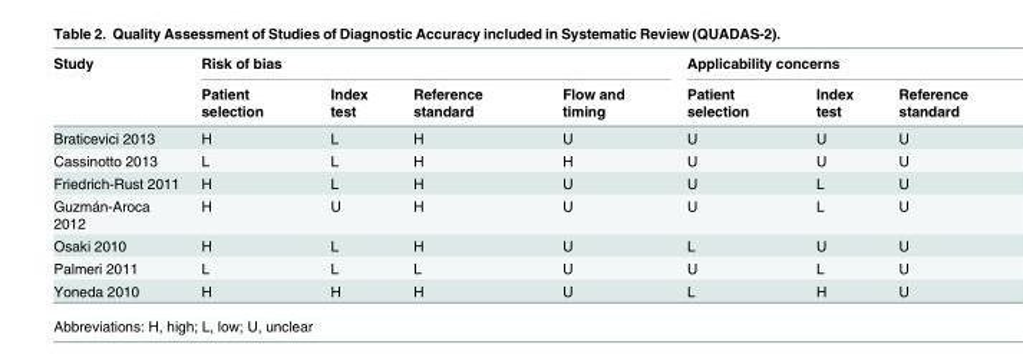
<table><thead><tr><td rowspan="2">Study</td><td colspan="4">Risk of bias</td><td colspan="3">Applicability concerns</td></tr><tr><td>Patient selection</td><td>Index test</td><td>Reference standard</td><td>Flow and timing</td><td>Patient selection</td><td>Index test</td><td>Reference standard</td></tr></thead><tbody><tr><td>Braticevici 2013</td><td>H</td><td>L</td><td>H</td><td>U</td><td>U</td><td>U</td><td>U</td></tr><tr><td>Cassinotto 2013</td><td>L</td><td>L</td><td>H</td><td>H</td><td>U</td><td>U</td><td>U</td></tr><tr><td>Friedrich-Rust 2011</td><td>H</td><td>L</td><td>H</td><td>U</td><td>U</td><td>L</td><td>U</td></tr><tr><td>Guzmán-Aroca 2012</td><td>H</td><td>U</td><td>H</td><td>U</td><td>U</td><td>L</td><td>U</td></tr><tr><td>Osaki 2010</td><td>H</td><td>L</td><td>H</td><td>U</td><td>L</td><td>U</td><td>U</td></tr><tr><td>Palmeri 2011</td><td>L</td><td>L</td><td>L</td><td>U</td><td>U</td><td>L</td><td>U</td></tr><tr><td>Yoneda 2010</td><td>H</td><td>H</td><td>H</td><td>U</td><td>L</td><td>H</td><td>U</td></tr></tbody></table>